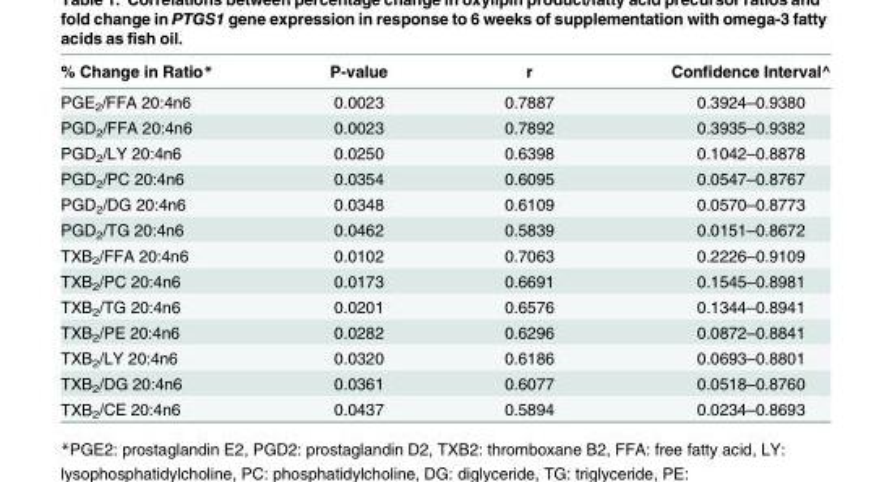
<table><thead><tr><td>% Change in Ratio*</td><td>P-value</td><td>r</td><td>Confidence Interval^</td></tr></thead><tbody><tr><td>PGE<sub>2</sub>/FFA 20:4n6</td><td>0.0023</td><td>0.7887</td><td>0.3924–0.9380</td></tr><tr><td>PGD<sub>2</sub>/FFA 20:4n6</td><td>0.0023</td><td>0.7892</td><td>0.3935–0.9382</td></tr><tr><td>PGD<sub>2</sub>/LY 20:4n6</td><td>0.0250</td><td>0.6398</td><td>0.1042–0.8878</td></tr><tr><td>PGD<sub>2</sub>/PC 20:4n6</td><td>0.0354</td><td>0.6095</td><td>0.0547–0.8767</td></tr><tr><td>PGD<sub>2</sub>/DG 20:4n6</td><td>0.0348</td><td>0.6109</td><td>0.0570–0.8773</td></tr><tr><td>PGD<sub>2</sub>/TG 20:4n6</td><td>0.0462</td><td>0.5839</td><td>0.0151–0.8672</td></tr><tr><td>TXB<sub>2</sub>/FFA 20:4n6</td><td>0.0102</td><td>0.7063</td><td>0.2226–0.9109</td></tr><tr><td>TXB<sub>2</sub>/PC 20:4n6</td><td>0.0173</td><td>0.6691</td><td>0.1545–0.8981</td></tr><tr><td>TXB<sub>2</sub>/TG 20:4n6</td><td>0.0201</td><td>0.6576</td><td>0.1344–0.8941</td></tr><tr><td>TXB<sub>2</sub>/PE 20:4n6</td><td>0.0282</td><td>0.6296</td><td>0.0872–0.8841</td></tr><tr><td>TXB<sub>2</sub>/LY 20:4n6</td><td>0.0320</td><td>0.6186</td><td>0.0693–0.8801</td></tr><tr><td>TXB<sub>2</sub>/DG 20:4n6</td><td>0.0361</td><td>0.6077</td><td>0.0518–0.8760</td></tr><tr><td>TXB<sub>2</sub>/CE 20:4n6</td><td>0.0437</td><td>0.5894</td><td>0.0234–0.8693</td></tr></tbody></table>